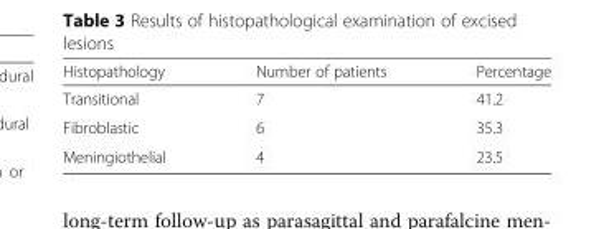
<table><thead><tr><td>Histopathology</td><td>Number of patients</td><td>Percentage</td></tr></thead><tbody><tr><td>Transitional</td><td>7</td><td>41.2</td></tr><tr><td>Fibroblastic</td><td>6</td><td>35.3</td></tr><tr><td>Meningiothelial</td><td>4</td><td>23.5</td></tr></tbody></table>